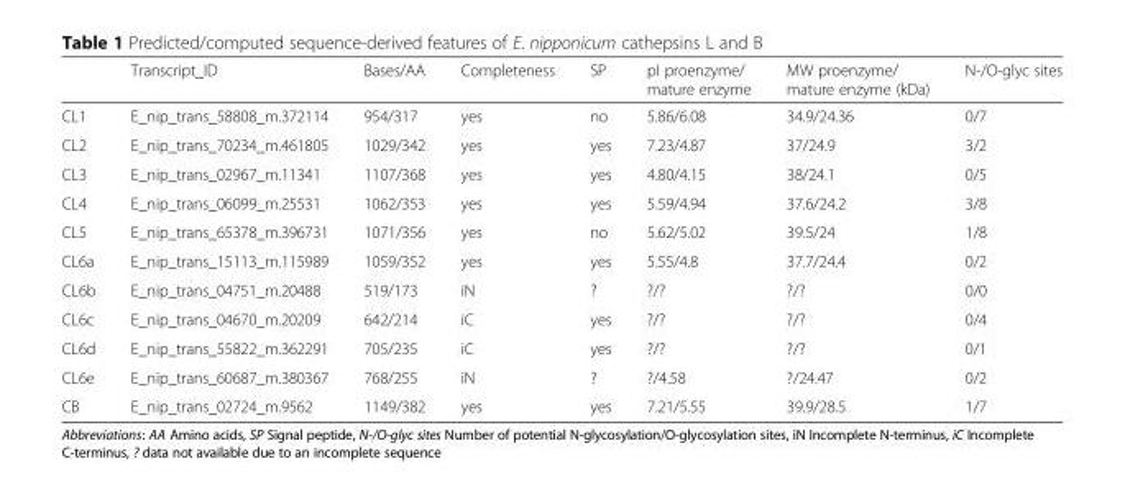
<table><thead><tr><td></td><td>Transcript_ID</td><td>Bases/AA</td><td>Completeness</td><td>SP</td><td>pI proenzyme/ mature enzyme</td><td>MW proenzyme/ mature enzyme (kDa)</td><td>N-/O-glyc sites</td></tr></thead><tbody><tr><td>CL1</td><td>E_nip_trans_58808_m.372114</td><td>954/317</td><td>yes</td><td>no</td><td>5.86/6.08</td><td>34.9/24.36</td><td>0/7</td></tr><tr><td>CL2</td><td>E_nip_trans_70234_m.461805</td><td>1029/342</td><td>yes</td><td>yes</td><td>7.23/4.87</td><td>37/24.9</td><td>3/2</td></tr><tr><td>CL3</td><td>E_nip_trans_02967_m.11341</td><td>1107/368</td><td>yes</td><td>yes</td><td>4.80/4.15</td><td>38/24.1</td><td>0/5</td></tr><tr><td>CL4</td><td>E_nip_trans_06099_m.25531</td><td>1062/353</td><td>yes</td><td>yes</td><td>5.59/4.94</td><td>37.6/24.2</td><td>3/8</td></tr><tr><td>CL5</td><td>E_nip_trans_65378_m.396731</td><td>1071/356</td><td>yes</td><td>no</td><td>5.62/5.02</td><td>39.5/24</td><td>1/8</td></tr><tr><td>CL6a</td><td>E_nip_trans_15113_m.115989</td><td>1059/352</td><td>yes</td><td>yes</td><td>5.55/4.8</td><td>37.7/24.4</td><td>0/2</td></tr><tr><td>CL6b</td><td>E_nip_trans_04751_m.20488</td><td>519/173</td><td>iN</td><td>?</td><td>?/?</td><td>?/?</td><td>0/0</td></tr><tr><td>CL6c</td><td>E_nip_trans_04670_m.20209</td><td>642/214</td><td>iC</td><td>yes</td><td>?/?</td><td>?/?</td><td>0/4</td></tr><tr><td>CL6d</td><td>E_nip_trans_55822_m.362291</td><td>705/235</td><td>iC</td><td>yes</td><td>?/?</td><td>?/?</td><td>0/1</td></tr><tr><td>CL6e</td><td>E_nip_trans_60687_m.380367</td><td>768/255</td><td>iN</td><td>?</td><td>?/4.58</td><td>?/24.47</td><td>0/2</td></tr><tr><td>CB</td><td>E_nip_trans_02724_m.9562</td><td>1149/382</td><td>yes</td><td>yes</td><td>7.21/5.55</td><td>39.9/28.5</td><td>1/7</td></tr></tbody></table>